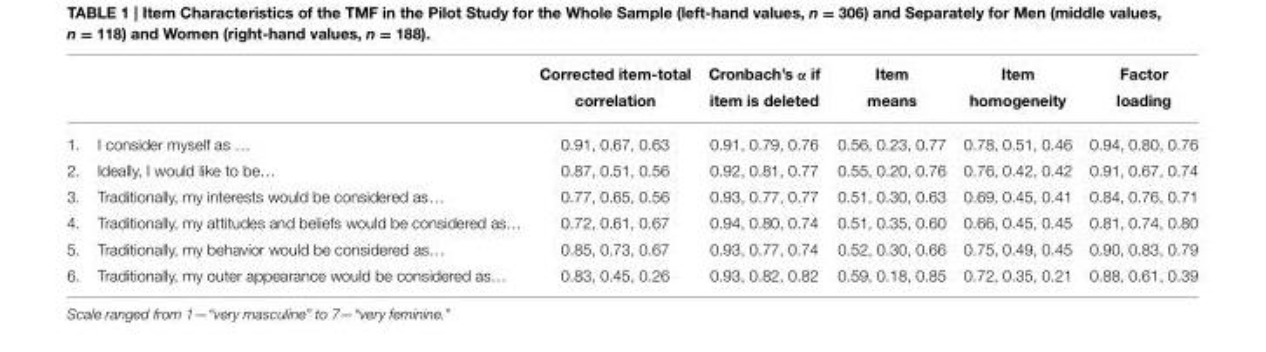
<table><thead><tr><td></td><td></td><td>Corrected item-total correlation</td><td>Cronbach’s α if item is deleted</td><td>Item means</td><td>Item homogeneity</td><td>Factor loading</td></tr></thead><tbody><tr><td>1.</td><td>I consider myself as …</td><td>0.91, 0.67, 0.63</td><td>0.91, 0.79, 0.76</td><td>0.56, 0.23, 0.77</td><td>0.78, 0.51, 0.46</td><td>0.94, 0.80, 0.76</td></tr><tr><td>2.</td><td>Ideally, I would like to be…</td><td>0.87, 0.51, 0.56</td><td>0.92, 0.81, 0.77</td><td>0.55, 0.20, 0.76</td><td>0.76, 0.42, 0.42</td><td>0.91, 0.67, 0.74</td></tr><tr><td>3.</td><td>Traditionally, my interests would be considered as…</td><td>0.77, 0.65, 0.56</td><td>0.93, 0.77, 0.77</td><td>0.51, 0.30, 0.63</td><td>0.69, 0.45, 0.41</td><td>0.84, 0.76, 0.71</td></tr><tr><td>4.</td><td>Traditionally, my attitudes and beliefs would be considered as…</td><td>0.72, 0.61, 0.67</td><td>0.94, 0.80, 0.74</td><td>0.51, 0.35, 0.60</td><td>0.66, 0.45, 0.45</td><td>0.81, 0.74, 0.80</td></tr><tr><td>5.</td><td>Traditionally, my behavior would be considered as…</td><td>0.85, 0.73, 0.67</td><td>0.93, 0.77, 0.74</td><td>0.52, 0.30, 0.66</td><td>0.75, 0.49, 0.45</td><td>0.90, 0.83, 0.79</td></tr><tr><td>6.</td><td>Traditionally, my outer appearance would be considered as…</td><td>0.83, 0.45, 0.26</td><td>0.93, 0.82, 0.82</td><td>0.59, 0.18, 0.85</td><td>0.72, 0.35, 0.21</td><td>0.88, 0.61, 0.39</td></tr></tbody></table>